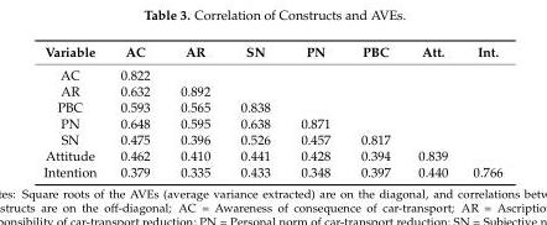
<table><thead><tr><td>Variable</td><td>AC</td><td>AR</td><td>SN</td><td>PN</td><td>PBC</td><td>Att.</td><td>Int.</td></tr></thead><tbody><tr><td>AC</td><td>0.822</td><td></td><td></td><td></td><td></td><td></td><td></td></tr><tr><td>AR</td><td>0.632</td><td>0.892</td><td></td><td></td><td></td><td></td><td></td></tr><tr><td>PBC</td><td>0.593</td><td>0.565</td><td>0.838</td><td></td><td></td><td></td><td></td></tr><tr><td>PN</td><td>0.648</td><td>0.595</td><td>0.638</td><td>0.871</td><td></td><td></td><td></td></tr><tr><td>SN</td><td>0.475</td><td>0.396</td><td>0.526</td><td>0.457</td><td>0.817</td><td></td><td></td></tr><tr><td>Attitude</td><td>0.462</td><td>0.410</td><td>0.441</td><td>0.428</td><td>0.394</td><td>0.839</td><td></td></tr><tr><td>Intention</td><td>0.379</td><td>0.335</td><td>0.433</td><td>0.348</td><td>0.397</td><td>0.440</td><td>0.766</td></tr></tbody></table>